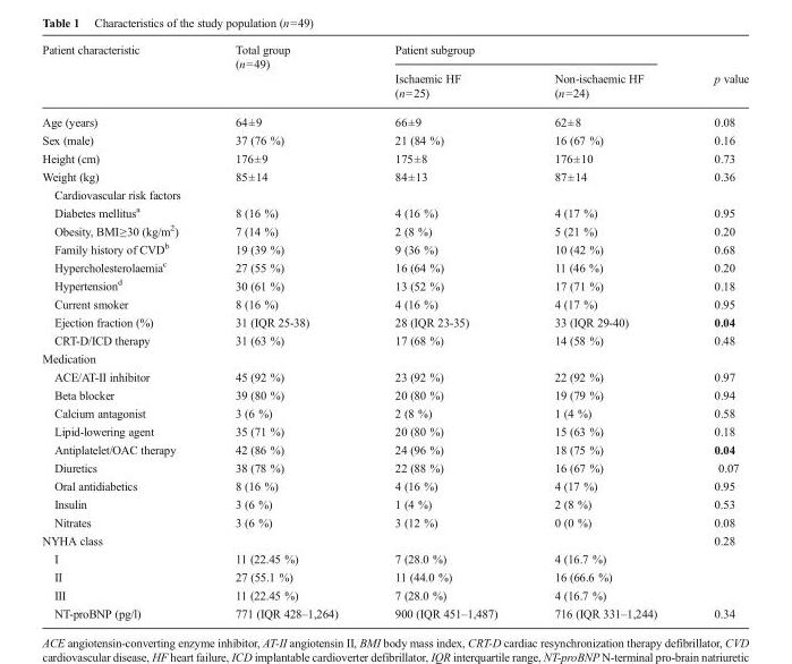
<table><thead><tr><td rowspan="2">Patient characteristic</td><td rowspan="2">Total group (n=49)</td><td colspan="2">Patient subgroup</td><td rowspan="2">p value</td></tr><tr><td>Ischaemic HF (n=25)</td><td>Non-ischaemic HF (n=24)</td></tr></thead><tbody><tr><td>Age (years)</td><td>64±9</td><td>66±9</td><td>62±8</td><td>0.08</td></tr><tr><td>Sex (male)</td><td>37 (76 %)</td><td>21 (84 %)</td><td>16 (67 %)</td><td>0.16</td></tr><tr><td>Height (cm)</td><td>176±9</td><td>175±8</td><td>176±10</td><td>0.73</td></tr><tr><td>Weight (kg)</td><td>85±14</td><td>84±13</td><td>87±14</td><td>0.36</td></tr><tr><td colspan="5">Cardiovascular risk factors</td></tr><tr><td>Diabetes mellitus<sup>a</sup></td><td>8 (16 %)</td><td>4 (16 %)</td><td>4 (17 %)</td><td>0.95</td></tr><tr><td>Obesity, BMI≥30 (kg/m<sup>2</sup>)</td><td>7 (14 %)</td><td>2 (8 %)</td><td>5 (21 %)</td><td>0.20</td></tr><tr><td>Family history of CVD<sup>b</sup></td><td>19 (39 %)</td><td>9 (36 %)</td><td>10 (42 %)</td><td>0.68</td></tr><tr><td>Hypercholesterolaemia<sup>c</sup></td><td>27 (55 %)</td><td>16 (64 %)</td><td>11 (46 %)</td><td>0.20</td></tr><tr><td>Hypertension<sup>d</sup></td><td>30 (61 %)</td><td>13 (52 %)</td><td>17 (71 %)</td><td>0.18</td></tr><tr><td>Current smoker</td><td>8 (16 %)</td><td>4 (16 %)</td><td>4 (17 %)</td><td>0.95</td></tr><tr><td>Ejection fraction (%)</td><td>31 (IQR 25-38)</td><td>28 (IQR 23-35)</td><td>33 (IQR 29-40)</td><td>0.04</td></tr><tr><td>CRT-D/ICD therapy</td><td>31 (63 %)</td><td>17 (68 %)</td><td>14 (58 %)</td><td>0.48</td></tr><tr><td colspan="5">Medication</td></tr><tr><td>ACE/AT-II inhibitor</td><td>45 (92 %)</td><td>23 (92 %)</td><td>22 (92 %)</td><td>0.97</td></tr><tr><td>Beta blocker</td><td>39 (80 %)</td><td>20 (80 %)</td><td>19 (79 %)</td><td>0.94</td></tr><tr><td>Calcium antagonist</td><td>3 (6 %)</td><td>2 (8 %)</td><td>1 (4 %)</td><td>0.58</td></tr><tr><td>Lipid-lowering agent</td><td>35 (71 %)</td><td>20 (80 %)</td><td>15 (63 %)</td><td>0.18</td></tr><tr><td>Antiplatelet/OAC therapy</td><td>42 (86 %)</td><td>24 (96 %)</td><td>18 (75 %)</td><td>0.04</td></tr><tr><td>Diuretics</td><td>38 (78 %)</td><td>22 (88 %)</td><td>16 (67 %)</td><td>0.07</td></tr><tr><td>Oral antidiabetics</td><td>8 (16 %)</td><td>4 (16 %)</td><td>4 (17 %)</td><td>0.95</td></tr><tr><td>Insulin</td><td>3 (6 %)</td><td>1 (4 %)</td><td>2 (8 %)</td><td>0.53</td></tr><tr><td>Nitrates</td><td>3 (6 %)</td><td>3 (12 %)</td><td>0 (0 %)</td><td>0.08</td></tr><tr><td colspan="4">NYHA class</td><td>0.28</td></tr><tr><td>I</td><td>11 (22.45 %)</td><td>7 (28.0 %)</td><td>4 (16.7 %)</td><td></td></tr><tr><td>II</td><td>27 (55.1 %)</td><td>11 (44.0 %)</td><td>16 (66.6 %)</td><td></td></tr><tr><td>III</td><td>11 (22.45 %)</td><td>7 (28.0 %)</td><td>4 (16.7 %)</td><td></td></tr><tr><td>NT-proBNP (pg/l)</td><td>771 (IQR 428–1,264)</td><td>900 (IQR 451–1,487)</td><td>716 (IQR 331–1,244)</td><td>0.34</td></tr></tbody></table>